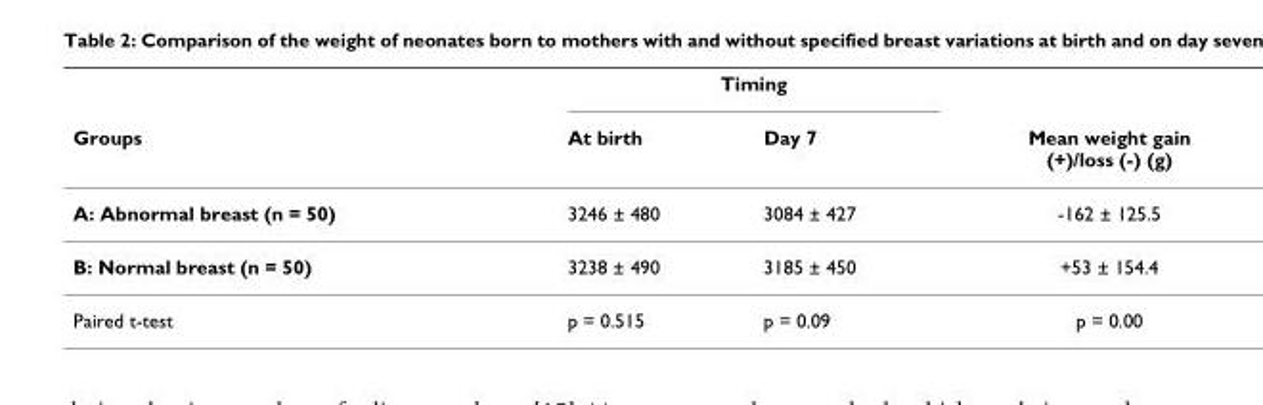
<table><thead><tr><td rowspan="2">Groups</td><td colspan="2">Timing</td><td rowspan="2">Mean weight gain (+)/loss (-) (g)</td></tr><tr><td>At birth</td><td>Day 7</td></tr></thead><tbody><tr><td>A: Abnormal breast (n = 50)</td><td>3246 ± 480</td><td>3084 ± 427</td><td>-162 ± 125.5</td></tr><tr><td>B: Normal breast (n = 50)</td><td>3238 ± 490</td><td>3185 ± 450</td><td>+53 ± 154.4</td></tr><tr><td>Paired t-test</td><td>p = 0.515</td><td>p = 0.09</td><td>p = 0.00</td></tr></tbody></table>